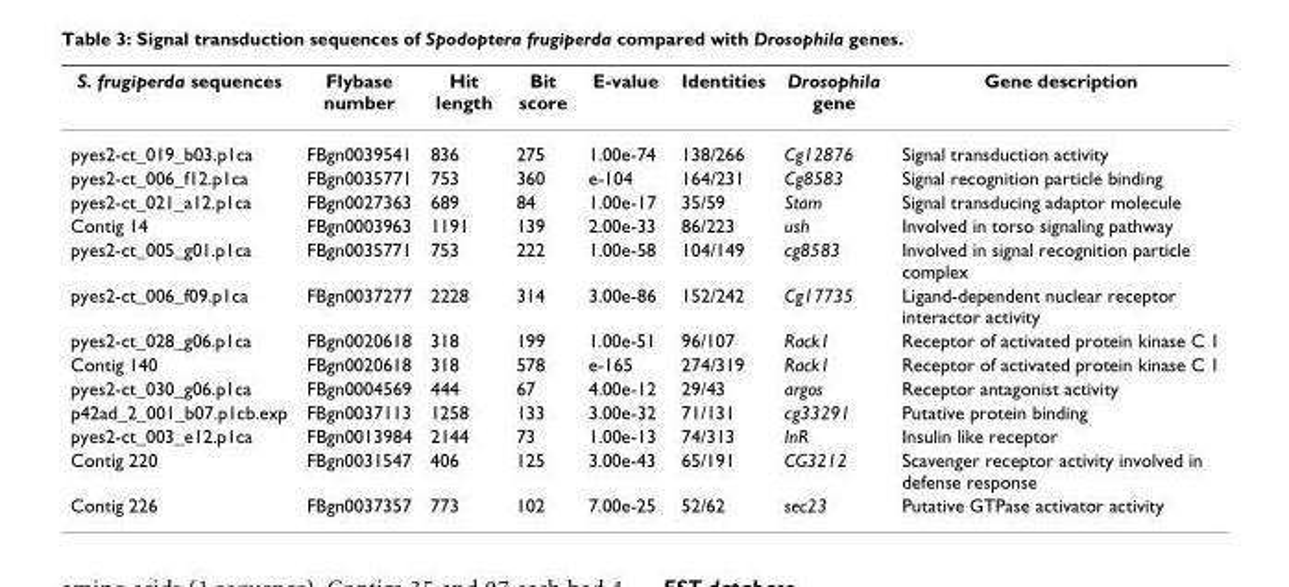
<table><thead><tr><td>S. frugiperda sequences</td><td>Flybase number</td><td>Hit length</td><td>Bit score</td><td>E-value</td><td>Identities</td><td>Drosophila gene</td><td>Gene description</td></tr></thead><tbody><tr><td>pyes2-ct_019_b03.p1ca</td><td>FBgn0039541</td><td>836</td><td>275</td><td>1.00e-74</td><td>138/266</td><td>Cg12876</td><td>Signal transduction activity</td></tr><tr><td>pyes2-ct_006_f12.p1ca</td><td>FBgn0035771</td><td>753</td><td>360</td><td>e-104</td><td>164/231</td><td>Cg8583</td><td>Signal recognition particle binding</td></tr><tr><td>pyes2-ct_021_a12.p1ca</td><td>FBgn0027363</td><td>689</td><td>84</td><td>1.00e-17</td><td>35/59</td><td>Stam</td><td>Signal transducing adaptor molecule</td></tr><tr><td>Contig 14</td><td>FBgn0003963</td><td>1191</td><td>139</td><td>2.00e-33</td><td>86/223</td><td>ush</td><td>Involved in torso signaling pathway</td></tr><tr><td>pyes2-ct_005_g01.p1ca</td><td>FBgn0035771</td><td>753</td><td>222</td><td>1.00e-58</td><td>104/149</td><td>cg8583</td><td>Involved in signal recognition particle complex</td></tr><tr><td>pyes2-ct_006_f09.p1ca</td><td>FBgn0037277</td><td>2228</td><td>314</td><td>3.00e-86</td><td>152/242</td><td>Cg17735</td><td>Ligand-dependent nuclear receptor interactor activity</td></tr><tr><td>pyes2-ct_028_g06.p1ca</td><td>FBgn0020618</td><td>318</td><td>199</td><td>1.00e-51</td><td>96/107</td><td>Rack1</td><td>Receptor of activated protein kinase C 1</td></tr><tr><td>Contig 140</td><td>FBgn0020618</td><td>318</td><td>578</td><td>e-165</td><td>274/319</td><td>Rack1</td><td>Receptor of activated protein kinase C 1</td></tr><tr><td>pyes2-ct_030_g06.p1ca</td><td>FBgn0004569</td><td>444</td><td>67</td><td>4.00e-12</td><td>29/43</td><td>argos</td><td>Receptor antagonist activity</td></tr><tr><td>p42ad_2_001_b07.p1cb.exp</td><td>FBgn0037113</td><td>1258</td><td>133</td><td>3.00e-32</td><td>71/131</td><td>cg33291</td><td>Putative protein binding</td></tr><tr><td>pyes2-ct_003_e12.p1ca</td><td>FBgn0013984</td><td>2144</td><td>73</td><td>1.00e-13</td><td>74/313</td><td>InR</td><td>Insulin like receptor</td></tr><tr><td>Contig 220</td><td>FBgn0031547</td><td>406</td><td>125</td><td>3.00e-43</td><td>65/191</td><td>CG3212</td><td>Scavenger receptor activity involved in defense response</td></tr><tr><td>Contig 226</td><td>FBgn0037357</td><td>773</td><td>102</td><td>7.00e-25</td><td>52/62</td><td>sec23</td><td>Putative GTPase activator activity</td></tr></tbody></table>